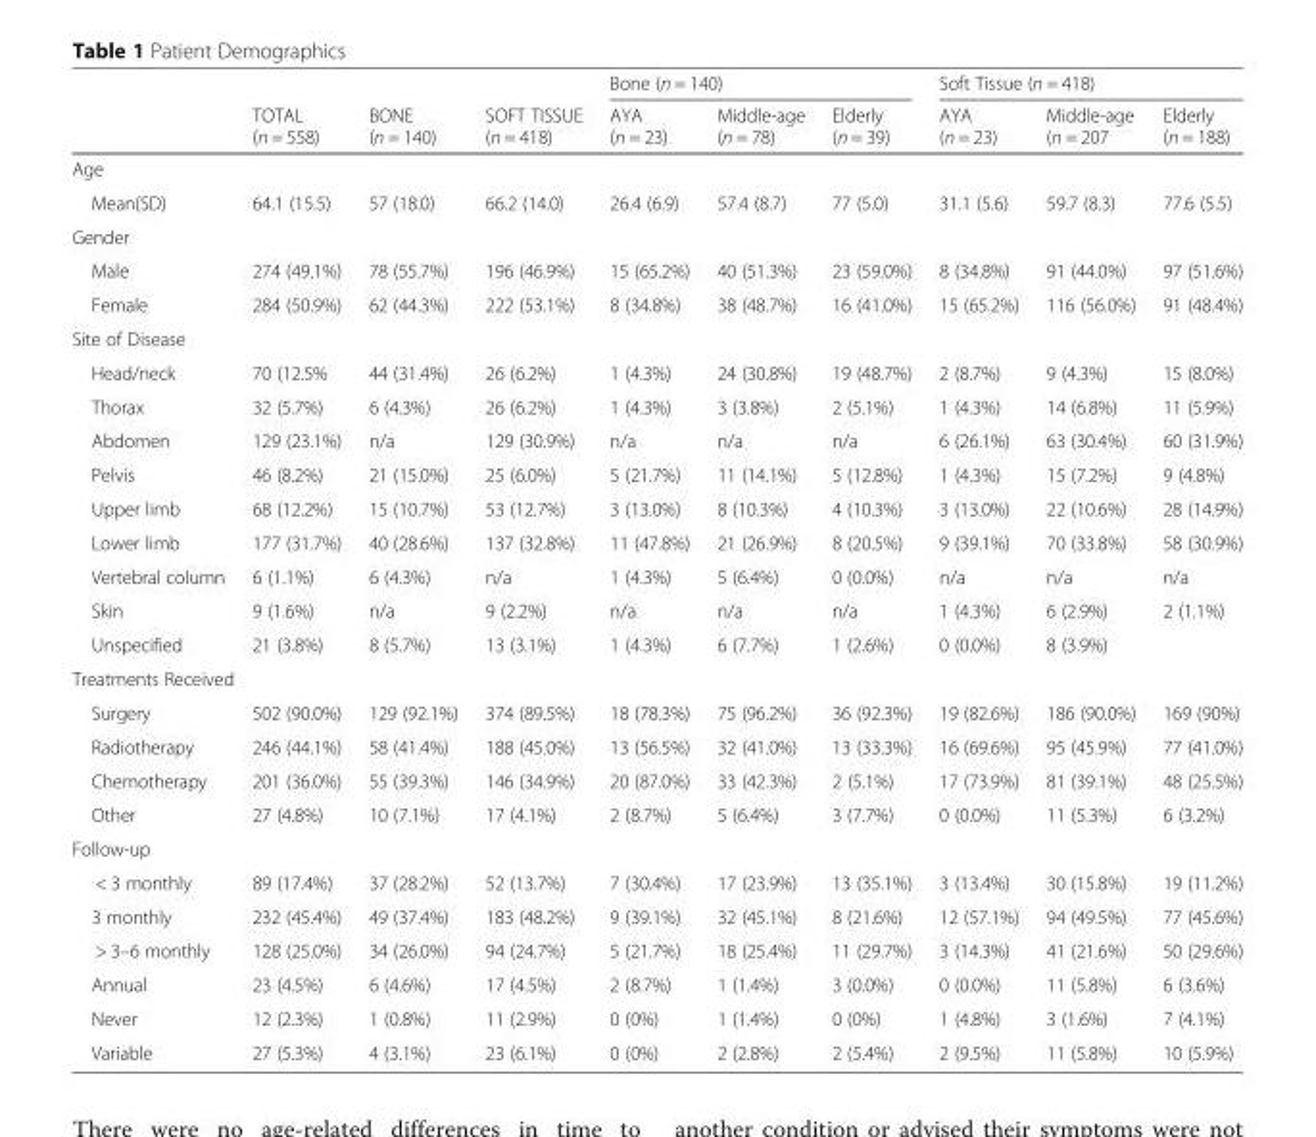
<table><thead><tr><td rowspan="2"></td><td rowspan="2">TOTAL (n = 558)</td><td rowspan="2">BONE (n = 140)</td><td rowspan="2">SOFT TISSUE (n = 418)</td><td colspan="3">Bone (n = 140)</td><td colspan="3">Soft Tissue (n = 418)</td></tr><tr><td>AYA (n = 23)</td><td>Middle-age (n = 78)</td><td>Elderly (n = 39)</td><td>AYA (n = 23)</td><td>Middle-age (n = 207</td><td>Elderly (n = 188)</td></tr></thead><tbody><tr><td colspan="10">Age</td></tr><tr><td>Mean(SD)</td><td>64.1 (15.5)</td><td>57 (18.0)</td><td>66.2 (14.0)</td><td>26.4 (6.9)</td><td>57.4 (8.7)</td><td>77 (5.0)</td><td>31.1 (5.6)</td><td>59.7 (8.3)</td><td>77.6 (5.5)</td></tr><tr><td colspan="10">Gender</td></tr><tr><td>Male</td><td>274 (49.1%)</td><td>78 (55.7%)</td><td>196 (46.9%)</td><td>15 (65.2%)</td><td>40 (51.3%)</td><td>23 (59.0%)</td><td>8 (34.8%)</td><td>91 (44.0%)</td><td>97 (51.6%)</td></tr><tr><td>Female</td><td>284 (50.9%)</td><td>62 (44.3%)</td><td>222 (53.1%)</td><td>8 (34.8%)</td><td>38 (48.7%)</td><td>16 (41.0%)</td><td>15 (65.2%)</td><td>116 (56.0%)</td><td>91 (48.4%)</td></tr><tr><td colspan="10">Site of Disease</td></tr><tr><td>Head/neck</td><td>70 (12.5%</td><td>44 (31.4%)</td><td>26 (6.2%)</td><td>1 (4.3%)</td><td>24 (30.8%)</td><td>19 (48.7%)</td><td>2 (8.7%)</td><td>9 (4.3%)</td><td>15 (8.0%)</td></tr><tr><td>Thorax</td><td>32 (5.7%)</td><td>6 (4.3%)</td><td>26 (6.2%)</td><td>1 (4.3%)</td><td>3 (3.8%)</td><td>2 (5.1%)</td><td>1 (4.3%)</td><td>14 (6.8%)</td><td>11 (5.9%)</td></tr><tr><td>Abdomen</td><td>129 (23.1%)</td><td>n/a</td><td>129 (30.9%)</td><td>n/a</td><td>n/a</td><td>n/a</td><td>6 (26.1%)</td><td>63 (30.4%)</td><td>60 (31.9%)</td></tr><tr><td>Pelvis</td><td>46 (8.2%)</td><td>21 (15.0%)</td><td>25 (6.0%)</td><td>5 (21.7%)</td><td>11 (14.1%)</td><td>5 (12.8%)</td><td>1 (4.3%)</td><td>15 (7.2%)</td><td>9 (4.8%)</td></tr><tr><td>Upper limb</td><td>68 (12.2%)</td><td>15 (10.7%)</td><td>53 (12.7%)</td><td>3 (13.0%)</td><td>8 (10.3%)</td><td>4 (10.3%)</td><td>3 (13.0%)</td><td>22 (10.6%)</td><td>28 (14.9%)</td></tr><tr><td>Lower limb</td><td>177 (31.7%)</td><td>40 (28.6%)</td><td>137 (32.8%)</td><td>11 (47.8%)</td><td>21 (26.9%)</td><td>8 (20.5%)</td><td>9 (39.1%)</td><td>70 (33.8%)</td><td>58 (30.9%)</td></tr><tr><td>Vertebral column</td><td>6 (1.1%)</td><td>6 (4.3%)</td><td>n/a</td><td>1 (4.3%)</td><td>5 (6.4%)</td><td>0 (0.0%)</td><td>n/a</td><td>n/a</td><td>n/a</td></tr><tr><td>Skin</td><td>9 (1.6%)</td><td>n/a</td><td>9 (2.2%)</td><td>n/a</td><td>n/a</td><td>n/a</td><td>1 (4.3%)</td><td>6 (2.9%)</td><td>2 (1.1%)</td></tr><tr><td>Unspecified</td><td>21 (3.8%)</td><td>8 (5.7%)</td><td>13 (3.1%)</td><td>1 (4.3%)</td><td>6 (7.7%)</td><td>1 (2.6%)</td><td>0 (0.0%)</td><td>8 (3.9%)</td><td></td></tr><tr><td colspan="10">Treatments Received</td></tr><tr><td>Surgery</td><td>502 (90.0%)</td><td>129 (92.1%)</td><td>374 (89.5%)</td><td>18 (78.3%)</td><td>75 (96.2%)</td><td>36 (92.3%)</td><td>19 (82.6%)</td><td>186 (90.0%)</td><td>169 (90%)</td></tr><tr><td>Radiotherapy</td><td>246 (44.1%)</td><td>58 (41.4%)</td><td>188 (45.0%)</td><td>13 (56.5%)</td><td>32 (41.0%)</td><td>13 (33.3%)</td><td>16 (69.6%)</td><td>95 (45.9%)</td><td>77 (41.0%)</td></tr><tr><td>Chemotherapy</td><td>201 (36.0%)</td><td>55 (39.3%)</td><td>146 (34.9%)</td><td>20 (87.0%)</td><td>33 (42.3%)</td><td>2 (5.1%)</td><td>17 (73.9%)</td><td>81 (39.1%)</td><td>48 (25.5%)</td></tr><tr><td>Other</td><td>27 (4.8%)</td><td>10 (7.1%)</td><td>17 (4.1%)</td><td>2 (8.7%)</td><td>5 (6.4%)</td><td>3 (7.7%)</td><td>0 (0.0%)</td><td>11 (5.3%)</td><td>6 (3.2%)</td></tr><tr><td colspan="10">Follow-up</td></tr><tr><td>&lt; 3 monthly</td><td>89 (17.4%)</td><td>37 (28.2%)</td><td>52 (13.7%)</td><td>7 (30.4%)</td><td>17 (23.9%)</td><td>13 (35.1%)</td><td>3 (13.4%)</td><td>30 (15.8%)</td><td>19 (11.2%)</td></tr><tr><td>3 monthly</td><td>232 (45.4%)</td><td>49 (37.4%)</td><td>183 (48.2%)</td><td>9 (39.1%)</td><td>32 (45.1%)</td><td>8 (21.6%)</td><td>12 (57.1%)</td><td>94 (49.5%)</td><td>77 (45.6%)</td></tr><tr><td>&gt; 3–6 monthly</td><td>128 (25.0%)</td><td>34 (26.0%)</td><td>94 (24.7%)</td><td>5 (21.7%)</td><td>18 (25.4%)</td><td>11 (29.7%)</td><td>3 (14.3%)</td><td>41 (21.6%)</td><td>50 (29.6%)</td></tr><tr><td>Annual</td><td>23 (4.5%)</td><td>6 (4.6%)</td><td>17 (4.5%)</td><td>2 (8.7%)</td><td>1 (1.4%)</td><td>3 (0.0%)</td><td>0 (0.0%)</td><td>11 (5.8%)</td><td>6 (3.6%)</td></tr><tr><td>Never</td><td>12 (2.3%)</td><td>1 (0.8%)</td><td>11 (2.9%)</td><td>0 (0%)</td><td>1 (1.4%)</td><td>0 (0%)</td><td>1 (4.8%)</td><td>3 (1.6%)</td><td>7 (4.1%)</td></tr><tr><td>Variable</td><td>27 (5.3%)</td><td>4 (3.1%)</td><td>23 (6.1%)</td><td>0 (0%)</td><td>2 (2.8%)</td><td>2 (5.4%)</td><td>2 (9.5%)</td><td>11 (5.8%)</td><td>10 (5.9%)</td></tr></tbody></table>